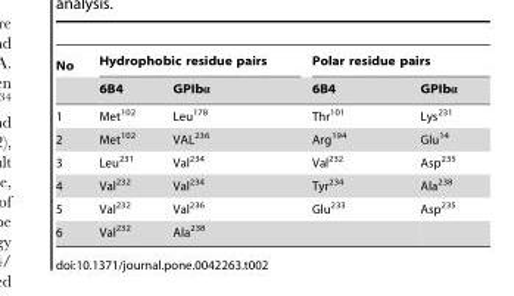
<table><thead><tr><td rowspan="2">No</td><td colspan="2">Hydrophobic residue pairs</td><td colspan="2">Polar residue pairs</td></tr><tr><td>6B4</td><td>GPIbα</td><td>6B4</td><td>GPIbα</td></tr></thead><tbody><tr><td>1</td><td>Met<sup>102</sup></td><td>Leu<sup>178</sup></td><td>Thr<sup>101</sup></td><td>Lys<sup>231</sup></td></tr><tr><td>2</td><td>Met<sup>102</sup></td><td>VAL<sup>236</sup></td><td>Arg<sup>194</sup></td><td>Glu<sup>14</sup></td></tr><tr><td>3</td><td>Leu<sup>231</sup></td><td>Val<sup>234</sup></td><td>Val<sup>232</sup></td><td>Asp<sup>235</sup></td></tr><tr><td>4</td><td>Val<sup>232</sup></td><td>Val<sup>234</sup></td><td>Tyr<sup>234</sup></td><td>Ala<sup>238</sup></td></tr><tr><td>5</td><td>Val<sup>232</sup></td><td>Val<sup>236</sup></td><td>Glu<sup>233</sup></td><td>Asp<sup>235</sup></td></tr><tr><td>6</td><td>Val<sup>232</sup></td><td>Ala<sup>238</sup></td><td></td><td></td></tr></tbody></table>